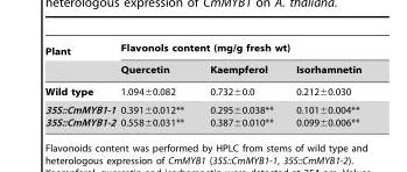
<table><thead><tr><td rowspan="2">Plant</td><td colspan="3">Flavonols content (mg/g fresh wt)</td></tr><tr><td>Quercetin</td><td>Kaempferol</td><td>Isorhamnetin</td></tr></thead><tbody><tr><td>Wild type</td><td>1.094±0.082</td><td>0.732±0.0</td><td>0.212±0.030</td></tr><tr><td>35S::CmMYB1-1 35S::CmMYB1-2</td><td>0.391±0.012** 0.558±0.031**</td><td>0.295±0.038** 0.387±0.010**</td><td>0.101±0.004** 0.099±0.006**</td></tr></tbody></table>